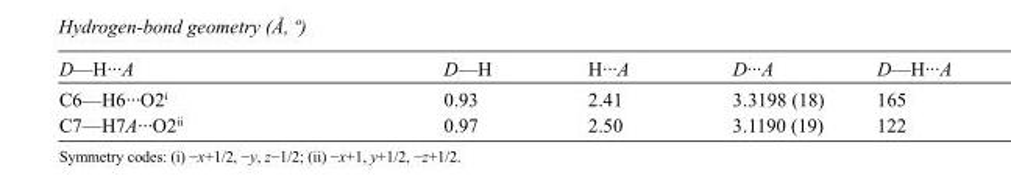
<table><tbody><tr><td>D—H···A</td><td>D—H</td><td>H···A</td><td>D···A</td><td>D—H···A</td></tr><tr><td>C6—H6···O2<sup>i</sup></td><td>0.93</td><td>2.41</td><td>3.3198 (18)</td><td>165</td></tr><tr><td>C7—H7A···O2<sup>ii</sup></td><td>0.97</td><td>2.50</td><td>3.1190 (19)</td><td>122</td></tr></tbody></table>